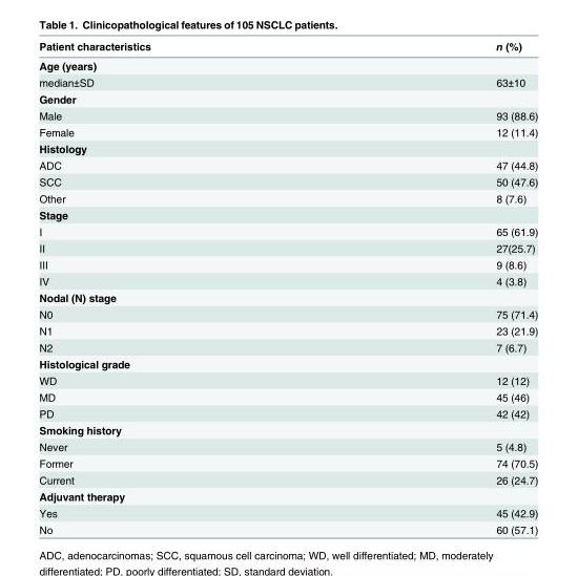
<table><thead><tr><td>Patient characteristics</td><td>n (%)</td></tr></thead><tbody><tr><td colspan="2">Age (years)</td></tr><tr><td>median±SD</td><td>63±10</td></tr><tr><td colspan="2">Gender</td></tr><tr><td>Male</td><td>93 (88.6)</td></tr><tr><td>Female</td><td>12 (11.4)</td></tr><tr><td colspan="2">Histology</td></tr><tr><td>ADC</td><td>47 (44.8)</td></tr><tr><td>SCC</td><td>50 (47.6)</td></tr><tr><td>Other</td><td>8 (7.6)</td></tr><tr><td colspan="2">Stage</td></tr><tr><td>I</td><td>65 (61.9)</td></tr><tr><td>II</td><td>27(25.7)</td></tr><tr><td>III</td><td>9 (8.6)</td></tr><tr><td>IV</td><td>4 (3.8)</td></tr><tr><td colspan="2">Nodal (N) stage</td></tr><tr><td>N0</td><td>75 (71.4)</td></tr><tr><td>N1</td><td>23 (21.9)</td></tr><tr><td>N2</td><td>7 (6.7)</td></tr><tr><td colspan="2">Histological grade</td></tr><tr><td>WD</td><td>12 (12)</td></tr><tr><td>MD</td><td>45 (46)</td></tr><tr><td>PD</td><td>42 (42)</td></tr><tr><td colspan="2">Smoking history</td></tr><tr><td>Never</td><td>5 (4.8)</td></tr><tr><td>Former</td><td>74 (70.5)</td></tr><tr><td>Current</td><td>26 (24.7)</td></tr><tr><td colspan="2">Adjuvant therapy</td></tr><tr><td>Yes</td><td>45 (42.9)</td></tr><tr><td>No</td><td>60 (57.1)</td></tr></tbody></table>